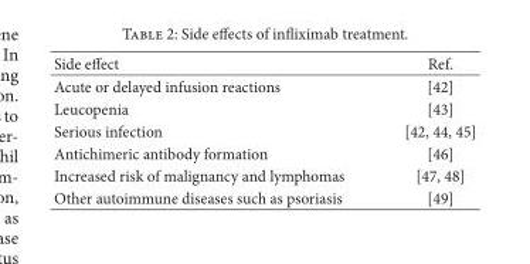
<table><thead><tr><td>Side effect</td><td>Ref.</td></tr></thead><tbody><tr><td>Acute or delayed infusion reactions</td><td>[42]</td></tr><tr><td>Leucopenia</td><td>[43]</td></tr><tr><td>Serious infection</td><td>[42, 44, 45]</td></tr><tr><td>Antichimeric antibody formation</td><td>[46]</td></tr><tr><td>Increased risk of malignancy and lymphomas</td><td>[47, 48]</td></tr><tr><td>Other autoimmune diseases such as psoriasis</td><td>[49]</td></tr></tbody></table>